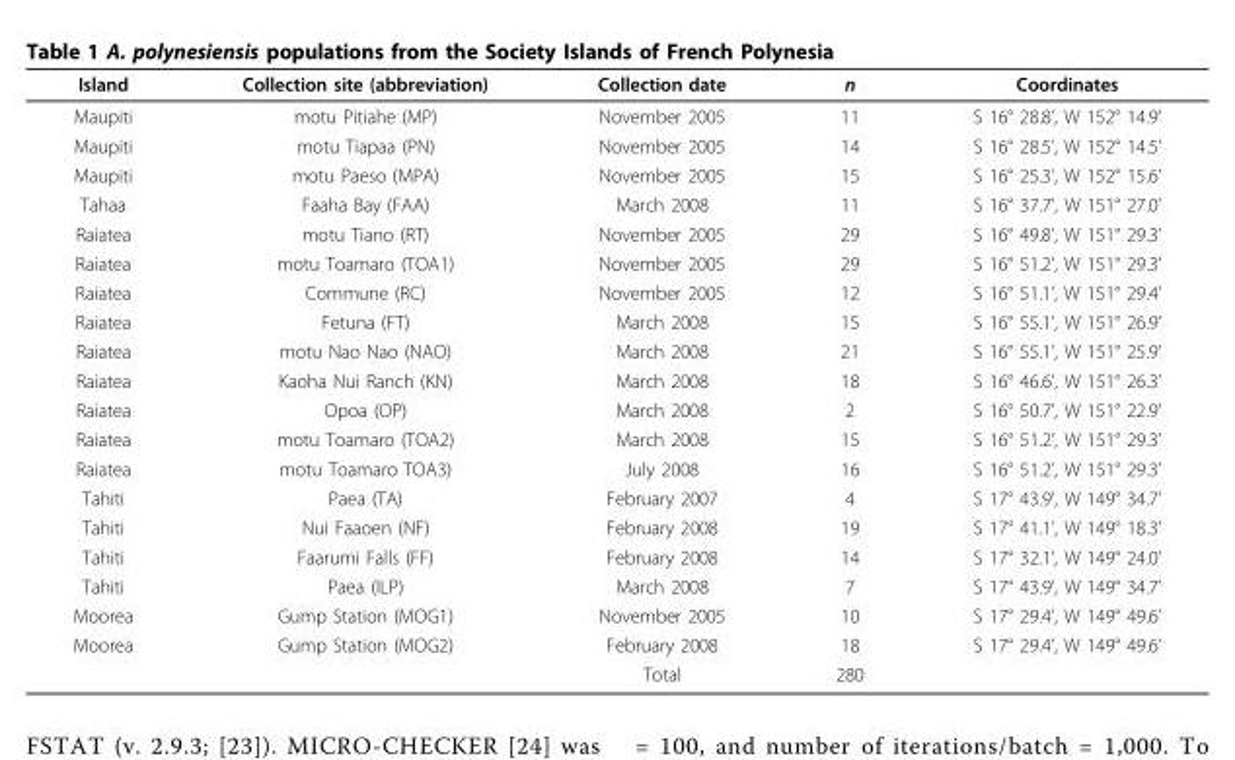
<table><thead><tr><td>Island</td><td>Collection site (abbreviation)</td><td>Collection date</td><td>n</td><td>Coordinates</td></tr></thead><tbody><tr><td>Maupiti</td><td>motu Pitiahe (MP)</td><td>November 2005</td><td>11</td><td>S 16° 28.8’, W 152° 14.9’</td></tr><tr><td>Maupiti</td><td>motu Tiapaa (PN)</td><td>November 2005</td><td>14</td><td>S 16° 28.5’, W 152° 14.5’</td></tr><tr><td>Maupiti</td><td>motu Paeso (MPA)</td><td>November 2005</td><td>15</td><td>S 16° 25.3’, W 152° 15.6’</td></tr><tr><td>Tahaa</td><td>Faaha Bay (FAA)</td><td>March 2008</td><td>11</td><td>S 16° 37.7’, W 151° 27.0’</td></tr><tr><td>Raiatea</td><td>motu Tiano (RT)</td><td>November 2005</td><td>29</td><td>S 16° 49.8’, W 151° 29.3’</td></tr><tr><td>Raiatea</td><td>motu Toamaro (TOA1)</td><td>November 2005</td><td>29</td><td>S 16° 51.2’, W 151° 29.3’</td></tr><tr><td>Raiatea</td><td>Commune (RC)</td><td>November 2005</td><td>12</td><td>S 16° 51.1’, W 151° 29.4’</td></tr><tr><td>Raiatea</td><td>Fetuna (FT)</td><td>March 2008</td><td>15</td><td>S 16° 55.1’, W 151° 26.9’</td></tr><tr><td>Raiatea</td><td>motu Nao Nao (NAO)</td><td>March 2008</td><td>21</td><td>S 16° 55.1’, W 151° 25.9’</td></tr><tr><td>Raiatea</td><td>Kaoha Nui Ranch (KN)</td><td>March 2008</td><td>18</td><td>S 16° 46.6’, W 151° 26.3’</td></tr><tr><td>Raiatea</td><td>Opoa (OP)</td><td>March 2008</td><td>2</td><td>S 16° 50.7’, W 151° 22.9’</td></tr><tr><td>Raiatea</td><td>motu Toamaro (TOA2)</td><td>March 2008</td><td>15</td><td>S 16° 51.2’, W 151° 29.3’</td></tr><tr><td>Raiatea</td><td>motu Toamaro TOA3)</td><td>July 2008</td><td>16</td><td>S 16° 51.2’, W 151° 29.3’</td></tr><tr><td>Tahiti</td><td>Paea (TA)</td><td>February 2007</td><td>4</td><td>S 17° 43.9’, W 149° 34.7’</td></tr><tr><td>Tahiti</td><td>Nui Faaoen (NF)</td><td>February 2008</td><td>19</td><td>S 17° 41.1’, W 149° 18.3’</td></tr><tr><td>Tahiti</td><td>Faarumi Falls (FF)</td><td>February 2008</td><td>14</td><td>S 17° 32.1’, W 149° 24.0’</td></tr><tr><td>Tahiti</td><td>Paea (ILP)</td><td>March 2008</td><td>7</td><td>S 17° 43.9’, W 149° 34.7’</td></tr><tr><td>Moorea</td><td>Gump Station (MOG1)</td><td>November 2005</td><td>10</td><td>S 17° 29.4’, W 149° 49.6’</td></tr><tr><td rowspan="2">Moorea</td><td>Gump Station (MOG2)</td><td>February 2008</td><td>18</td><td>S 17° 29.4’, W 149° 49.6’</td></tr><tr><td></td><td>Total</td><td>280</td><td></td></tr></tbody></table>